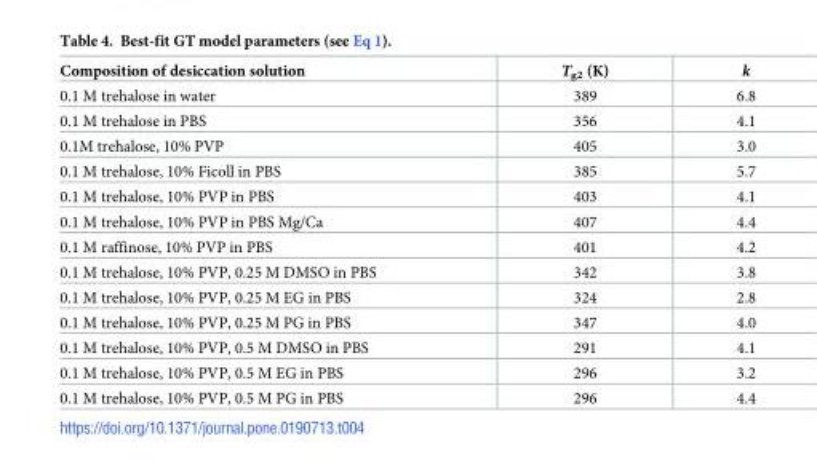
<table><thead><tr><td>Composition of desiccation solution</td><td>T<sub>g2</sub> (K)</td><td>k</td></tr></thead><tbody><tr><td>0.1 M trehalose in water</td><td>389</td><td>6.8</td></tr><tr><td>0.1 M trehalose in PBS</td><td>356</td><td>4.1</td></tr><tr><td>0.1M trehalose, 10% PVP</td><td>405</td><td>3.0</td></tr><tr><td>0.1 M trehalose, 10% Ficoll in PBS</td><td>385</td><td>5.7</td></tr><tr><td>0.1 M trehalose, 10% PVP in PBS</td><td>403</td><td>4.1</td></tr><tr><td>0.1 M trehalose, 10% PVP in PBS Mg/Ca</td><td>407</td><td>4.4</td></tr><tr><td>0.1 M raffinose, 10% PVP in PBS</td><td>401</td><td>4.2</td></tr><tr><td>0.1 M trehalose, 10% PVP, 0.25 M DMSO in PBS</td><td>342</td><td>3.8</td></tr><tr><td>0.1 M trehalose, 10% PVP, 0.25 M EG in PBS</td><td>324</td><td>2.8</td></tr><tr><td>0.1 M trehalose, 10% PVP, 0.25 M PG in PBS</td><td>347</td><td>4.0</td></tr><tr><td>0.1 M trehalose, 10% PVP, 0.5 M DMSO in PBS</td><td>291</td><td>4.1</td></tr><tr><td>0.1 M trehalose, 10% PVP, 0.5 M EG in PBS</td><td>296</td><td>3.2</td></tr><tr><td>0.1 M trehalose, 10% PVP, 0.5 M PG in PBS</td><td>296</td><td>4.4</td></tr></tbody></table>